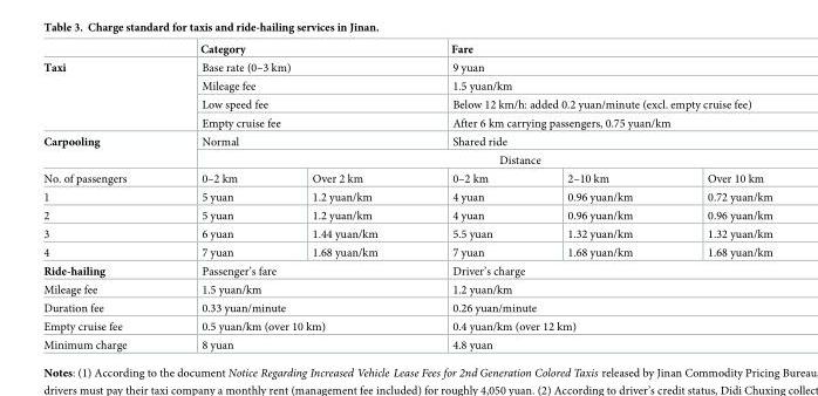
<table><thead><tr><td></td><td colspan="2">Category</td><td colspan="3">Fare</td></tr></thead><tbody><tr><td rowspan="4">Taxi</td><td colspan="2">Base rate (0–3 km)</td><td colspan="3">9 yuan</td></tr><tr><td colspan="2">Mileage fee</td><td colspan="3">1.5 yuan/km</td></tr><tr><td colspan="2">Low speed fee</td><td colspan="3">Below 12 km/h: added 0.2 yuan/minute (excl. empty cruise fee)</td></tr><tr><td colspan="2">Empty cruise fee</td><td colspan="3">After 6 km carrying passengers, 0.75 yuan/km</td></tr><tr><td rowspan="2">Carpooling</td><td colspan="2">Normal</td><td colspan="3">Shared ride</td></tr><tr><td colspan="5">Distance</td></tr><tr><td>No. of passengers</td><td>0–2 km</td><td>Over 2 km</td><td>0–2 km</td><td>2–10 km</td><td>Over 10 km</td></tr><tr><td>1</td><td>5 yuan</td><td>1.2 yuan/km</td><td>4 yuan</td><td>0.96 yuan/km</td><td>0.72 yuan/km</td></tr><tr><td>2</td><td>5 yuan</td><td>1.2 yuan/km</td><td>4 yuan</td><td>0.96 yuan/km</td><td>0.96 yuan/km</td></tr><tr><td>3</td><td>6 yuan</td><td>1.44 yuan/km</td><td>5.5 yuan</td><td>1.32 yuan/km</td><td>1.32 yuan/km</td></tr><tr><td>4</td><td>7 yuan</td><td>1.68 yuan/km</td><td>7 yuan</td><td>1.68 yuan/km</td><td>1.68 yuan/km</td></tr><tr><td>Ride-hailing</td><td colspan="2">Passenger’s fare</td><td colspan="3">Driver’s charge</td></tr><tr><td>Mileage fee</td><td colspan="2">1.5 yuan/km</td><td colspan="3">1.2 yuan/km</td></tr><tr><td>Duration fee</td><td colspan="2">0.33 yuan/minute</td><td colspan="3">0.26 yuan/minute</td></tr><tr><td>Empty cruise fee</td><td colspan="2">0.5 yuan/km (over 10 km)</td><td colspan="3">0.4 yuan/km (over 12 km)</td></tr><tr><td>Minimum charge</td><td colspan="2">8 yuan</td><td colspan="3">4.8 yuan</td></tr></tbody></table>